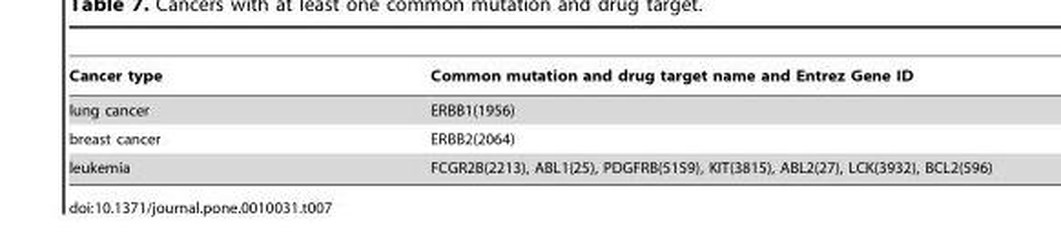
<table><thead><tr><td>Cancer type</td><td>Common mutation and drug target name and Entrez Gene ID</td></tr></thead><tbody><tr><td>lung cancer</td><td>ERBB1(1956)</td></tr><tr><td>breast cancer</td><td>ERBB2(2064)</td></tr><tr><td>leukemia</td><td>FCGR2B(2213), ABL1(25), PDGFRB(5159), KIT(3815), ABL2(27), LCK(3932), BCL2(596)</td></tr></tbody></table>